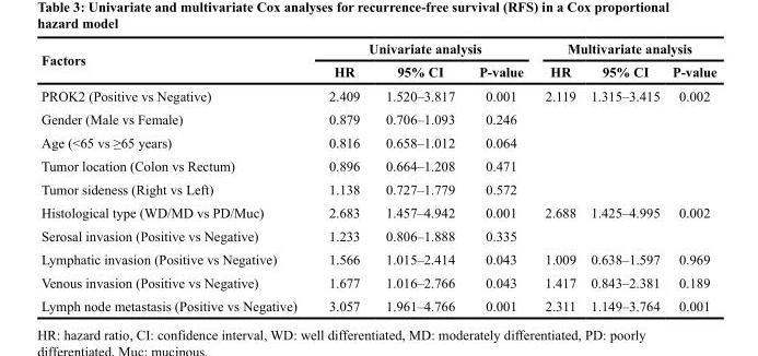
<table><thead><tr><td rowspan="2">Factors</td><td colspan="3">Univariate analysis</td><td colspan="3">Multivariate analysis</td></tr><tr><td>HR</td><td>95% CI</td><td>P-value</td><td>HR</td><td>95% CI</td><td>P-value</td></tr></thead><tbody><tr><td>PROK2 (Positive vs Negative)</td><td>2.409</td><td>1.520–3.817</td><td>0.001</td><td>2.119</td><td>1.315–3.415</td><td>0.002</td></tr><tr><td>Gender (Male vs Female)</td><td>0.879</td><td>0.706–1.093</td><td>0.246</td><td></td><td></td><td></td></tr><tr><td>Age (&lt;65 vs ≥65 years)</td><td>0.816</td><td>0.658–1.012</td><td>0.064</td><td></td><td></td><td></td></tr><tr><td>Tumor location (Colon vs Rectum)</td><td>0.896</td><td>0.664–1.208</td><td>0.471</td><td></td><td></td><td></td></tr><tr><td>Tumor sideness (Right vs Left)</td><td>1.138</td><td>0.727–1.779</td><td>0.572</td><td></td><td></td><td></td></tr><tr><td>Histological type (WD/MD vs PD/Muc)</td><td>2.683</td><td>1.457–4.942</td><td>0.001</td><td>2.688</td><td>1.425–4.995</td><td>0.002</td></tr><tr><td>Serosal invasion (Positive vs Negative)</td><td>1.233</td><td>0.806–1.888</td><td>0.335</td><td></td><td></td><td></td></tr><tr><td>Lymphatic invasion (Positive vs Negative)</td><td>1.566</td><td>1.015–2.414</td><td>0.043</td><td>1.009</td><td>0.638–1.597</td><td>0.969</td></tr><tr><td>Venous invasion (Positive vs Negative)</td><td>1.677</td><td>1.016–2.766</td><td>0.043</td><td>1.417</td><td>0.843–2.381</td><td>0.189</td></tr><tr><td>Lymph node metastasis (Positive vs Negative)</td><td>3.057</td><td>1.961–4.766</td><td>0.001</td><td>2.311</td><td>1.149–3.764</td><td>0.001</td></tr></tbody></table>